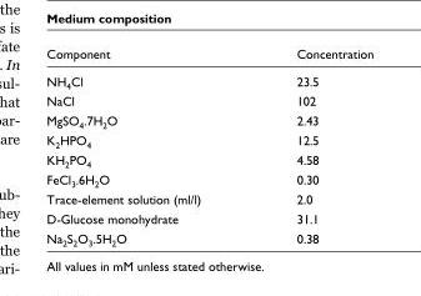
<table><thead><tr><td>Component</td><td>Concentration</td></tr></thead><tbody><tr><td>NH<sub>4</sub>Cl</td><td>23.5</td></tr><tr><td>NaCl</td><td>102</td></tr><tr><td>MgSO<sub>4</sub>.7H<sub>2</sub>O</td><td>2.43</td></tr><tr><td>K<sub>2</sub>HPO<sub>4</sub></td><td>12.5</td></tr><tr><td>KH<sub>2</sub>PO<sub>4</sub></td><td>4.58</td></tr><tr><td>FeCl<sub>3</sub>.6H<sub>2</sub>O</td><td>0.30</td></tr><tr><td>Trace-element solution (ml/l)</td><td>2.0</td></tr><tr><td>D-Glucose monohydrate</td><td>31.1</td></tr><tr><td>Na<sub>2</sub>S<sub>2</sub>O<sub>3</sub>.5H<sub>2</sub>O</td><td>0.38</td></tr></tbody></table>